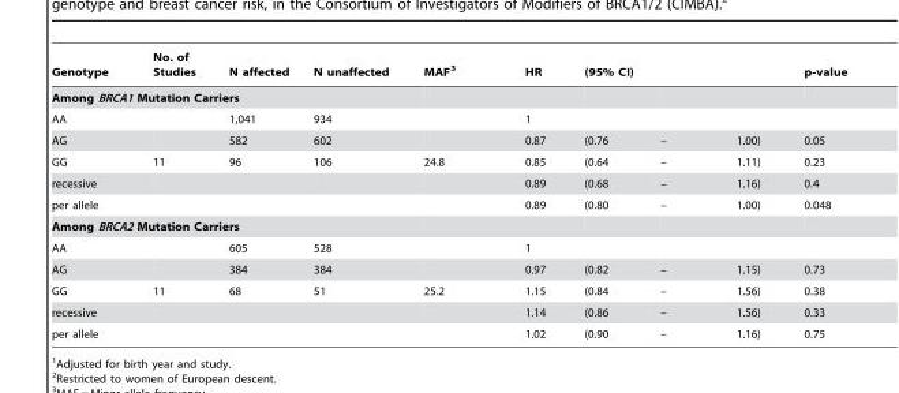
<table><thead><tr><td>Genotype</td><td>No. of Studies</td><td>N affected</td><td>N unaffected</td><td rowspan="2">MAF<sup>3</sup></td><td rowspan="2">HR</td><td colspan="3">(95% CI)</td><td rowspan="2">p-value</td></tr><tr><td colspan="4">Among BRCA1 Mutation Carriers</td><td></td><td></td><td></td></tr></thead><tbody><tr><td>AA</td><td></td><td>1,041</td><td>934</td><td></td><td>1</td><td></td><td></td><td></td><td></td></tr><tr><td>AG</td><td></td><td>582</td><td>602</td><td></td><td>0.87</td><td>(0.76</td><td>–</td><td>1.00)</td><td>0.05</td></tr><tr><td>GG</td><td>11</td><td>96</td><td>106</td><td>24.8</td><td>0.85</td><td>(0.64</td><td>–</td><td>1.11)</td><td>0.23</td></tr><tr><td>recessive</td><td></td><td></td><td></td><td></td><td>0.89</td><td>(0.68</td><td>–</td><td>1.16)</td><td>0.4</td></tr><tr><td>per allele</td><td></td><td></td><td></td><td></td><td>0.89</td><td>(0.80</td><td>–</td><td>1.00)</td><td>0.048</td></tr><tr><td colspan="10">Among BRCA2 Mutation Carriers</td></tr><tr><td>AA</td><td></td><td>605</td><td>528</td><td></td><td>1</td><td></td><td></td><td></td><td></td></tr><tr><td>AG</td><td></td><td>384</td><td>384</td><td></td><td>0.97</td><td>(0.82</td><td>–</td><td>1.15)</td><td>0.73</td></tr><tr><td>GG</td><td>11</td><td>68</td><td>51</td><td>25.2</td><td>1.15</td><td>(0.84</td><td>–</td><td>1.56)</td><td>0.38</td></tr><tr><td>recessive</td><td></td><td></td><td></td><td></td><td>1.14</td><td>(0.86</td><td>–</td><td>1.56)</td><td>0.33</td></tr><tr><td>per allele</td><td></td><td></td><td></td><td></td><td>1.02</td><td>(0.90</td><td>–</td><td>1.16)</td><td>0.75</td></tr></tbody></table>